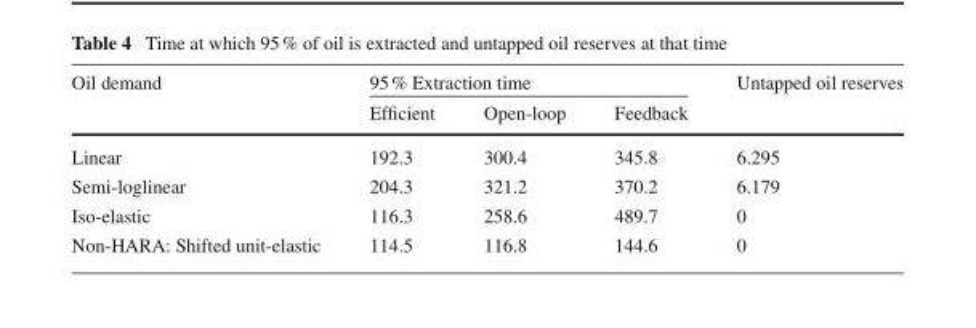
<table><thead><tr><td rowspan="2">Oil demand</td><td colspan="3">95% Extraction time</td><td rowspan="2">Untapped oil reserves</td></tr><tr><td>Efficient</td><td>Open-loop</td><td>Feedback</td></tr></thead><tbody><tr><td>Linear</td><td>192.3</td><td>300.4</td><td>345.8</td><td>6.295</td></tr><tr><td>Semi-loglinear</td><td>204.3</td><td>321.2</td><td>370.2</td><td>6.179</td></tr><tr><td>Iso-elastic</td><td>116.3</td><td>258.6</td><td>489.7</td><td>0</td></tr><tr><td>Non-HARA: Shifted unit-elastic</td><td>114.5</td><td>116.8</td><td>144.6</td><td>0</td></tr></tbody></table>